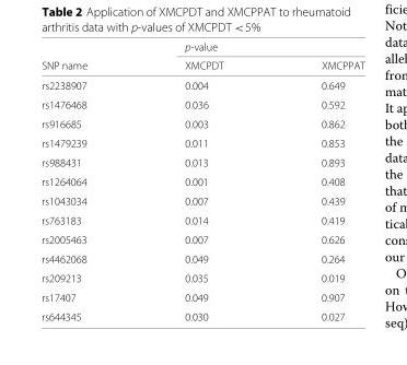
<table><thead><tr><td rowspan="2">SNP name</td><td colspan="2">p-value</td></tr><tr><td>XMCPDT</td><td>XMCPPAT</td></tr></thead><tbody><tr><td>rs2238907</td><td>0.004</td><td>0.649</td></tr><tr><td>rs1476468</td><td>0.036</td><td>0.592</td></tr><tr><td>rs916685</td><td>0.003</td><td>0.862</td></tr><tr><td>rs1479239</td><td>0.011</td><td>0.853</td></tr><tr><td>rs988431</td><td>0.013</td><td>0.893</td></tr><tr><td>rs1264064</td><td>0.001</td><td>0.408</td></tr><tr><td>rs1043034</td><td>0.007</td><td>0.439</td></tr><tr><td>rs763183</td><td>0.014</td><td>0.419</td></tr><tr><td>rs2005463</td><td>0.007</td><td>0.626</td></tr><tr><td>rs4462068</td><td>0.049</td><td>0.264</td></tr><tr><td>rs209213</td><td>0.035</td><td>0.019</td></tr><tr><td>rs17407</td><td>0.049</td><td>0.907</td></tr><tr><td>rs644345</td><td>0.030</td><td>0.027</td></tr></tbody></table>